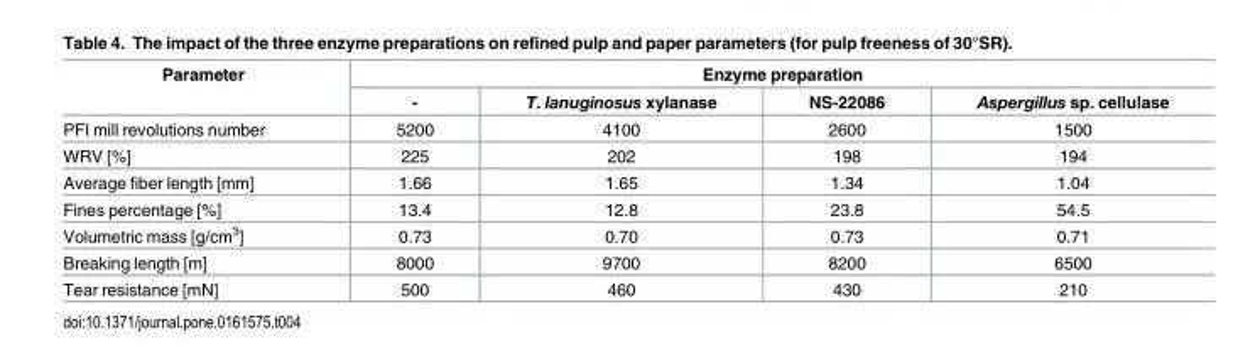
<table><thead><tr><td rowspan="2">Parameter</td><td colspan="4">Enzyme preparation</td></tr><tr><td>-</td><td>T. lanuginosus xylanase</td><td>NS-22086</td><td>Aspergillus sp. cellulase</td></tr></thead><tbody><tr><td>PFI mill revolutions number</td><td>5200</td><td>4100</td><td>2600</td><td>1500</td></tr><tr><td>WRV [%]</td><td>225</td><td>202</td><td>198</td><td>194</td></tr><tr><td>Average fiber length [mm]</td><td>1.66</td><td>1.65</td><td>1.34</td><td>1.04</td></tr><tr><td>Fines percentage [%]</td><td>13.4</td><td>12.8</td><td>23.8</td><td>54.5</td></tr><tr><td>Volumetric mass [g/cm<sup>3</sup>]</td><td>0.73</td><td>0.70</td><td>0.73</td><td>0.71</td></tr><tr><td>Breaking length [m]</td><td>8000</td><td>9700</td><td>8200</td><td>6500</td></tr><tr><td>Tear resistance [mN]</td><td>500</td><td>460</td><td>430</td><td>210</td></tr></tbody></table>